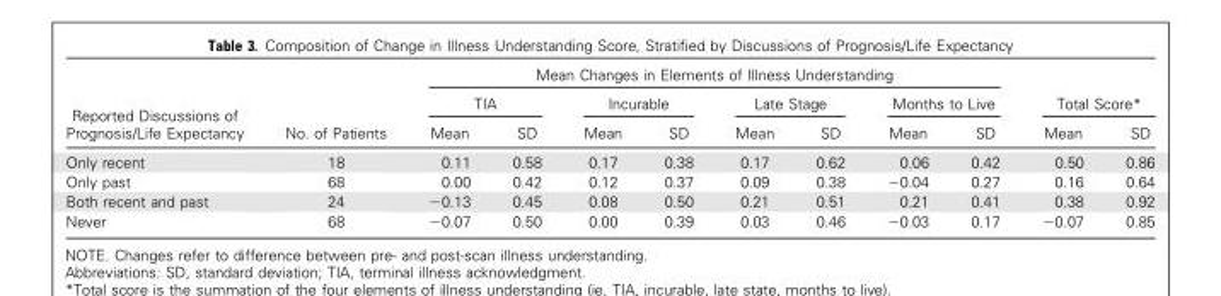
<table><thead><tr><td rowspan="3">Reported Discussions of Prognosis/Life Expectancy</td><td rowspan="3">No. of Patients</td><td colspan="8">Mean Changes in Elements of Illness Understanding</td><td rowspan="2" colspan="2">Total Score*</td></tr><tr><td colspan="2">TIA</td><td colspan="2">Incurable</td><td colspan="2">Late Stage</td><td colspan="2">Months to Live</td></tr><tr><td>Mean</td><td>SD</td><td>Mean</td><td>SD</td><td>Mean</td><td>SD</td><td>Mean</td><td>SD</td><td>Mean</td><td>SD</td></tr></thead><tbody><tr><td>Only recent</td><td>18</td><td>0.11</td><td>0.58</td><td>0.17</td><td>0.38</td><td>0.17</td><td>0.62</td><td>0.06</td><td>0.42</td><td>0.50</td><td>0.86</td></tr><tr><td>Only past</td><td>68</td><td>0.00</td><td>0.42</td><td>0.12</td><td>0.37</td><td>0.09</td><td>0.38</td><td>−0.04</td><td>0.27</td><td>0.16</td><td>0.64</td></tr><tr><td>Both recent and past</td><td>24</td><td>−0.13</td><td>0.45</td><td>0.08</td><td>0.50</td><td>0.21</td><td>0.51</td><td>0.21</td><td>0.41</td><td>0.38</td><td>0.92</td></tr><tr><td>Never</td><td>68</td><td>−0.07</td><td>0.50</td><td>0.00</td><td>0.39</td><td>0.03</td><td>0.46</td><td>−0.03</td><td>0.17</td><td>−0.07</td><td>0.85</td></tr></tbody></table>